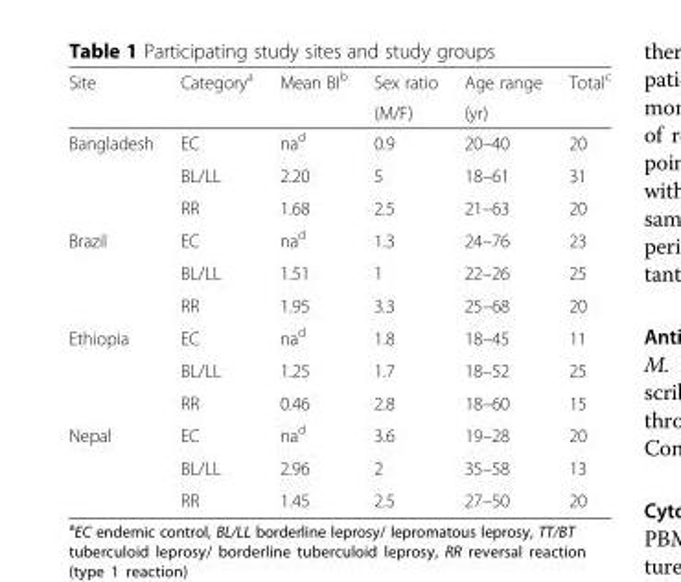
<table><thead><tr><td rowspan="2">Site</td><td rowspan="2">Category<sup>a</sup></td><td rowspan="2">Mean BI<sup>b</sup></td><td rowspan="2">Sex ratio (M/F)</td><td rowspan="2">Age range (yr)</td><td rowspan="2">Total<sup>c</sup></td></tr><tr></tr></thead><tbody><tr><td rowspan="3">Bangladesh</td><td>EC</td><td>na<sup>d</sup></td><td>0.9</td><td>20–40</td><td>20</td></tr><tr><td>BL/LL</td><td>2.20</td><td>5</td><td>18–61</td><td>31</td></tr><tr><td>RR</td><td>1.68</td><td>2.5</td><td>21–63</td><td>20</td></tr><tr><td rowspan="3">Brazil</td><td>EC</td><td>na<sup>d</sup></td><td>1.3</td><td>24–76</td><td>23</td></tr><tr><td>BL/LL</td><td>1.51</td><td>1</td><td>22–26</td><td>25</td></tr><tr><td>RR</td><td>1.95</td><td>3.3</td><td>25–68</td><td>20</td></tr><tr><td rowspan="3">Ethiopia</td><td>EC</td><td>na<sup>d</sup></td><td>1.8</td><td>18–45</td><td>11</td></tr><tr><td>BL/LL</td><td>1.25</td><td>1.7</td><td>18–52</td><td>25</td></tr><tr><td>RR</td><td>0.46</td><td>2.8</td><td>18–60</td><td>15</td></tr><tr><td rowspan="3">Nepal</td><td>EC</td><td>na<sup>d</sup></td><td>3.6</td><td>19–28</td><td>20</td></tr><tr><td>BL/LL</td><td>2.96</td><td>2</td><td>35–58</td><td>13</td></tr><tr><td>RR</td><td>1.45</td><td>2.5</td><td>27–50</td><td>20</td></tr></tbody></table>